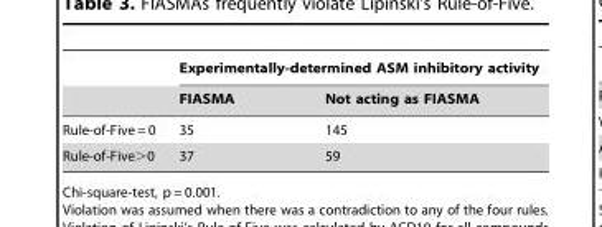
<table><thead><tr><td rowspan="2"></td><td colspan="2">Experimentally-determined ASM inhibitory activity</td></tr><tr><td>FIASMA</td><td>Not acting as FIASMA</td></tr></thead><tbody><tr><td>Rule-of-Five = 0</td><td>35</td><td>145</td></tr><tr><td>Rule-of-Five&gt;0</td><td>37</td><td>59</td></tr></tbody></table>